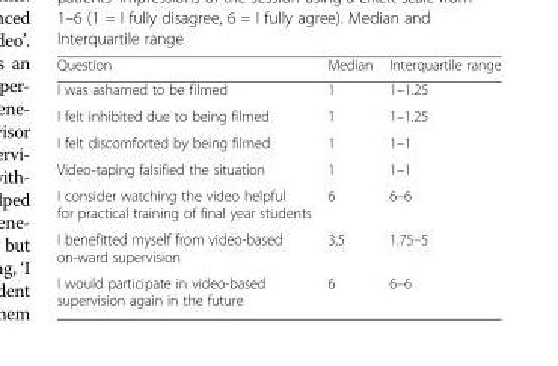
<table><thead><tr><td>Question</td><td>Median</td><td>Interquartile range</td></tr></thead><tbody><tr><td>I was ashamed to be filmed</td><td>1</td><td>1–1.25</td></tr><tr><td>I felt inhibited due to being filmed</td><td>1</td><td>1–1.25</td></tr><tr><td>I felt discomforted by being filmed</td><td>1</td><td>1–1</td></tr><tr><td>Video-taping falsified the situation</td><td>1</td><td>1–1</td></tr><tr><td>I consider watching the video helpful for practical training of final year students</td><td>6</td><td>6–6</td></tr><tr><td>I benefitted myself from video-based on-ward supervision</td><td>3,5</td><td>1.75–5</td></tr><tr><td>I would participate in video-based supervision again in the future</td><td>6</td><td>6–6</td></tr></tbody></table>